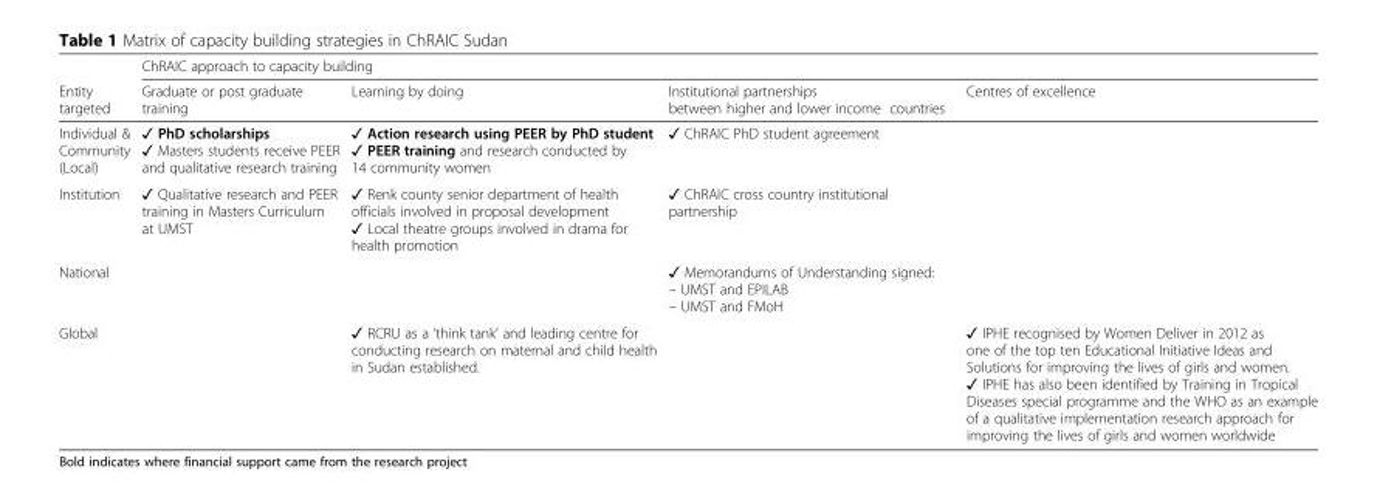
<table><thead><tr><td rowspan="2">Entity targeted</td><td colspan="4">ChRAIC approach to capacity building</td></tr><tr><td>Graduate or post graduate training</td><td>Learning by doing</td><td>Institutional partnerships between higher and lower income countries</td><td>Centres of excellence</td></tr></thead><tbody><tr><td>Individual &amp; Community (Local)</td><td>✓ PhD scholarships ✓ Masters students receive PEER and qualitative research training</td><td>✓ Action research using PEER by PhD student ✓ PEER training and research conducted by 14 community women</td><td>✓ ChRAIC PhD student agreement</td><td></td></tr><tr><td>Institution</td><td>✓ Qualitative research and PEER training in Masters Curriculum at UMST</td><td>✓ Renk county senior department of health officials involved in proposal development ✓ Local theatre groups involved in drama for health promotion</td><td>✓ ChRAIC cross country institutional partnership</td><td></td></tr><tr><td>National</td><td></td><td></td><td>✓ Memorandums of Understanding signed: – UMST and EPILAB – UMST and FMoH</td><td></td></tr><tr><td>Global</td><td></td><td>✓ RCRU as a ‘think tank’ and leading centre for conducting research on maternal and child health in Sudan established.</td><td></td><td>✓ IPHE recognised by Women Deliver in 2012 as one of the top ten Educational Initiative Ideas and Solutions for improving the lives of girls and women. ✓ IPHE has also been identified by Training in Tropical Diseases special programme and the WHO as an example of a qualitative implementation research approach for improving the lives of girls and women worldwide</td></tr></tbody></table>